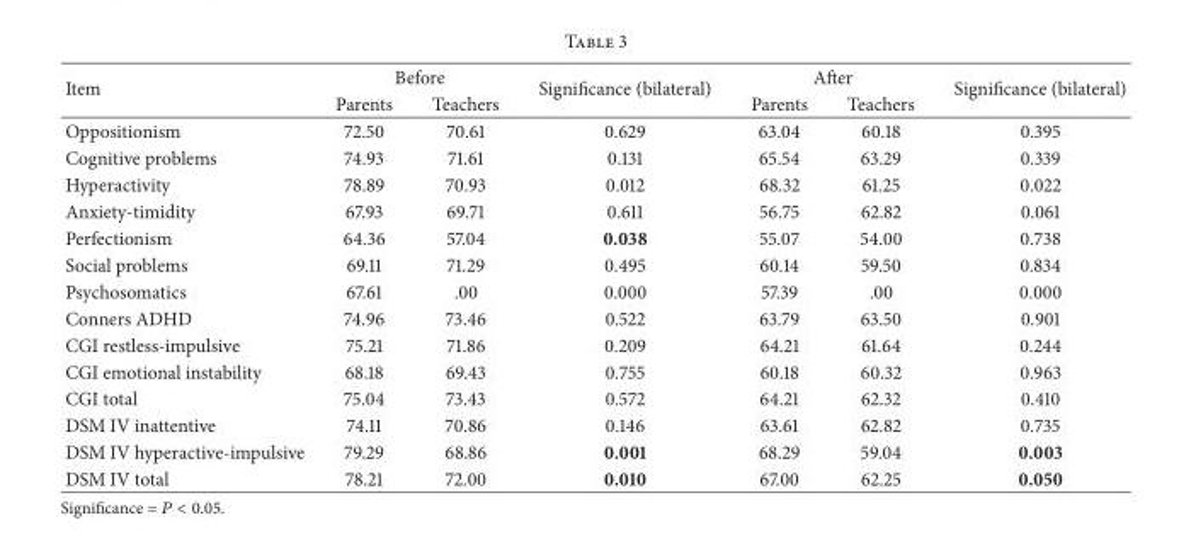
<table><thead><tr><td rowspan="2">Item</td><td colspan="2">Before</td><td rowspan="2">Significance (bilateral)</td><td colspan="2">After</td><td rowspan="2">Significance (bilateral)</td></tr><tr><td>Parents</td><td>Teachers</td><td>Parents</td><td>Teachers</td></tr></thead><tbody><tr><td>Oppositionism</td><td>72.50</td><td>70.61</td><td>0.629</td><td>63.04</td><td>60.18</td><td>0.395</td></tr><tr><td>Cognitive problems</td><td>74.93</td><td>71.61</td><td>0.131</td><td>65.54</td><td>63.29</td><td>0.339</td></tr><tr><td>Hyperactivity</td><td>78.89</td><td>70.93</td><td>0.012</td><td>68.32</td><td>61.25</td><td>0.022</td></tr><tr><td>Anxiety-timidity</td><td>67.93</td><td>69.71</td><td>0.611</td><td>56.75</td><td>62.82</td><td>0.061</td></tr><tr><td>Perfectionism</td><td>64.36</td><td>57.04</td><td>0.038</td><td>55.07</td><td>54.00</td><td>0.738</td></tr><tr><td>Social problems</td><td>69.11</td><td>71.29</td><td>0.495</td><td>60.14</td><td>59.50</td><td>0.834</td></tr><tr><td>Psychosomatics</td><td>67.61</td><td>.00</td><td>0.000</td><td>57.39</td><td>.00</td><td>0.000</td></tr><tr><td>Conners ADHD</td><td>74.96</td><td>73.46</td><td>0.522</td><td>63.79</td><td>63.50</td><td>0.901</td></tr><tr><td>CGI restless-impulsive</td><td>75.21</td><td>71.86</td><td>0.209</td><td>64.21</td><td>61.64</td><td>0.244</td></tr><tr><td>CGI emotional instability</td><td>68.18</td><td>69.43</td><td>0.755</td><td>60.18</td><td>60.32</td><td>0.963</td></tr><tr><td>CGI total</td><td>75.04</td><td>73.43</td><td>0.572</td><td>64.21</td><td>62.32</td><td>0.410</td></tr><tr><td>DSM IV inattentive</td><td>74.11</td><td>70.86</td><td>0.146</td><td>63.61</td><td>62.82</td><td>0.735</td></tr><tr><td>DSM IV hyperactive-impulsive</td><td>79.29</td><td>68.86</td><td>0.001</td><td>68.29</td><td>59.04</td><td>0.003</td></tr><tr><td>DSM IV total</td><td>78.21</td><td>72.00</td><td>0.010</td><td>67.00</td><td>62.25</td><td>0.050</td></tr></tbody></table>